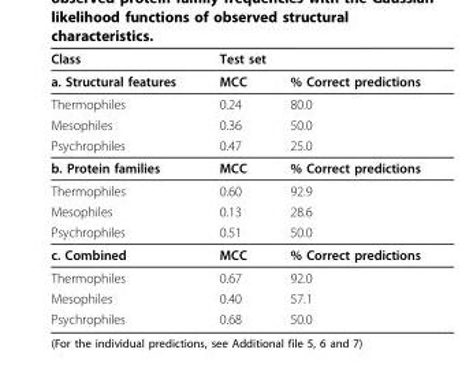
<table><thead><tr><td rowspan="2">Class a. Structural features</td><td colspan="2">Test set</td></tr><tr><td>MCC</td><td>% Correct predictions</td></tr></thead><tbody><tr><td>Thermophiles</td><td>0.24</td><td>80.0</td></tr><tr><td>Mesophiles</td><td>0.36</td><td>50.0</td></tr><tr><td>Psychrophiles</td><td>0.47</td><td>25.0</td></tr><tr><td>b. Protein families</td><td>MCC</td><td>% Correct predictions</td></tr><tr><td>Thermophiles</td><td>0.60</td><td>92.9</td></tr><tr><td>Mesophiles</td><td>0.13</td><td>28.6</td></tr><tr><td>Psychrophiles</td><td>0.51</td><td>50.0</td></tr><tr><td>c. Combined</td><td>MCC</td><td>% Correct predictions</td></tr><tr><td>Thermophiles</td><td>0.67</td><td>92.0</td></tr><tr><td>Mesophiles</td><td>0.40</td><td>57.1</td></tr><tr><td>Psychrophiles</td><td>0.68</td><td>50.0</td></tr></tbody></table>